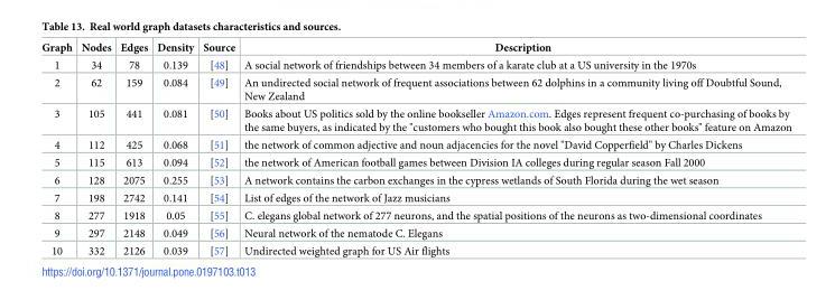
<table><thead><tr><td>Graph</td><td>Nodes</td><td>Edges</td><td>Density</td><td>Source</td><td>Description</td></tr></thead><tbody><tr><td>1</td><td>34</td><td>78</td><td>0.139</td><td>[48]</td><td>A social network of friendships between 34 members of a karate club at a US university in the 1970s</td></tr><tr><td>2</td><td>62</td><td>159</td><td>0.084</td><td>[49]</td><td>An undirected social network of frequent associations between 62 dolphins in a community living off Doubtful Sound, New Zealand</td></tr><tr><td>3</td><td>105</td><td>441</td><td>0.081</td><td>[50]</td><td>Books about US politics sold by the online bookseller Amazon.com. Edges represent frequent co-purchasing of books by the same buyers, as indicated by the &quot;customers who bought this book also bought these other books&quot; feature on Amazon</td></tr><tr><td>4</td><td>112</td><td>425</td><td>0.068</td><td>[51]</td><td>the network of common adjective and noun adjacencies for the novel &quot;David Copperfield&quot; by Charles Dickens</td></tr><tr><td>5</td><td>115</td><td>613</td><td>0.094</td><td>[52]</td><td>the network of American football games between Division IA colleges during regular season Fall 2000</td></tr><tr><td>6</td><td>128</td><td>2075</td><td>0.255</td><td>[53]</td><td>A network contains the carbon exchanges in the cypress wetlands of South Florida during the wet season</td></tr><tr><td>7</td><td>198</td><td>2742</td><td>0.141</td><td>[54]</td><td>List of edges of the network of Jazz musicians</td></tr><tr><td>8</td><td>277</td><td>1918</td><td>0.05</td><td>[55]</td><td>C. elegans global network of 277 neurons, and the spatial positions of the neurons as two-dimensional coordinates</td></tr><tr><td>9</td><td>297</td><td>2148</td><td>0.049</td><td>[56]</td><td>Neural network of the nematode C. Elegans</td></tr><tr><td>10</td><td>332</td><td>2126</td><td>0.039</td><td>[57]</td><td>Undirected weighted graph for US Air flights</td></tr></tbody></table>